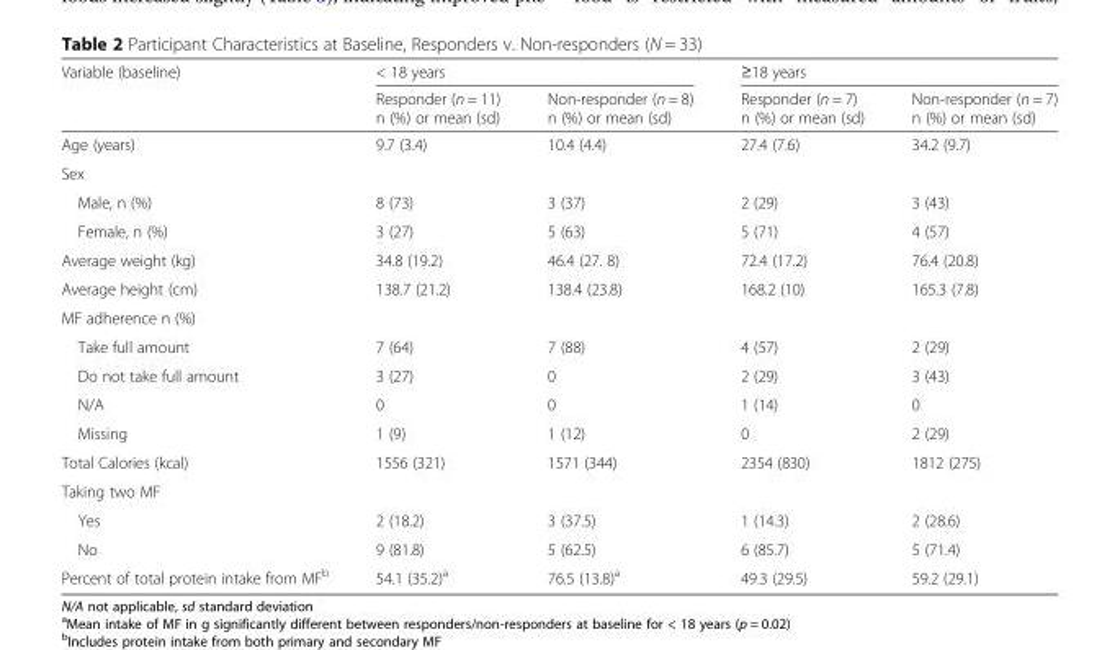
<table><thead><tr><td rowspan="2">Variable (baseline)</td><td colspan="2">&lt; 18 years</td><td colspan="2">≥18 years</td></tr><tr><td>Responder (n = 11) n (%) or mean (sd)</td><td>Non-responder (n = 8) n (%) or mean (sd)</td><td>Responder (n = 7) n (%) or mean (sd)</td><td>Non-responder (n = 7) n (%) or mean (sd)</td></tr></thead><tbody><tr><td>Age (years)</td><td>9.7 (3.4)</td><td>10.4 (4.4)</td><td>27.4 (7.6)</td><td>34.2 (9.7)</td></tr><tr><td colspan="5">Sex</td></tr><tr><td>Male, n (%)</td><td>8 (73)</td><td>3 (37)</td><td>2 (29)</td><td>3 (43)</td></tr><tr><td>Female, n (%)</td><td>3 (27)</td><td>5 (63)</td><td>5 (71)</td><td>4 (57)</td></tr><tr><td>Average weight (kg)</td><td>34.8 (19.2)</td><td>46.4 (27. 8)</td><td>72.4 (17.2)</td><td>76.4 (20.8)</td></tr><tr><td>Average height (cm)</td><td>138.7 (21.2)</td><td>138.4 (23.8)</td><td>168.2 (10)</td><td>165.3 (7.8)</td></tr><tr><td colspan="5">MF adherence n (%)</td></tr><tr><td>Take full amount</td><td>7 (64)</td><td>7 (88)</td><td>4 (57)</td><td>2 (29)</td></tr><tr><td>Do not take full amount</td><td>3 (27)</td><td>0</td><td>2 (29)</td><td>3 (43)</td></tr><tr><td>N/A</td><td>0</td><td>0</td><td>1 (14)</td><td>0</td></tr><tr><td>Missing</td><td>1 (9)</td><td>1 (12)</td><td>0</td><td>2 (29)</td></tr><tr><td>Total Calories (kcal)</td><td>1556 (321)</td><td>1571 (344)</td><td>2354 (830)</td><td>1812 (275)</td></tr><tr><td colspan="5">Taking two MF</td></tr><tr><td>Yes</td><td>2 (18.2)</td><td>3 (37.5)</td><td>1 (14.3)</td><td>2 (28.6)</td></tr><tr><td>No</td><td>9 (81.8)</td><td>5 (62.5)</td><td>6 (85.7)</td><td>5 (71.4)</td></tr><tr><td>Percent of total protein intake from MF<sup>b</sup></td><td>54.1 (35.2)<sup>a</sup></td><td>76.5 (13.8)<sup>a</sup></td><td>49.3 (29.5)</td><td>59.2 (29.1)</td></tr></tbody></table>